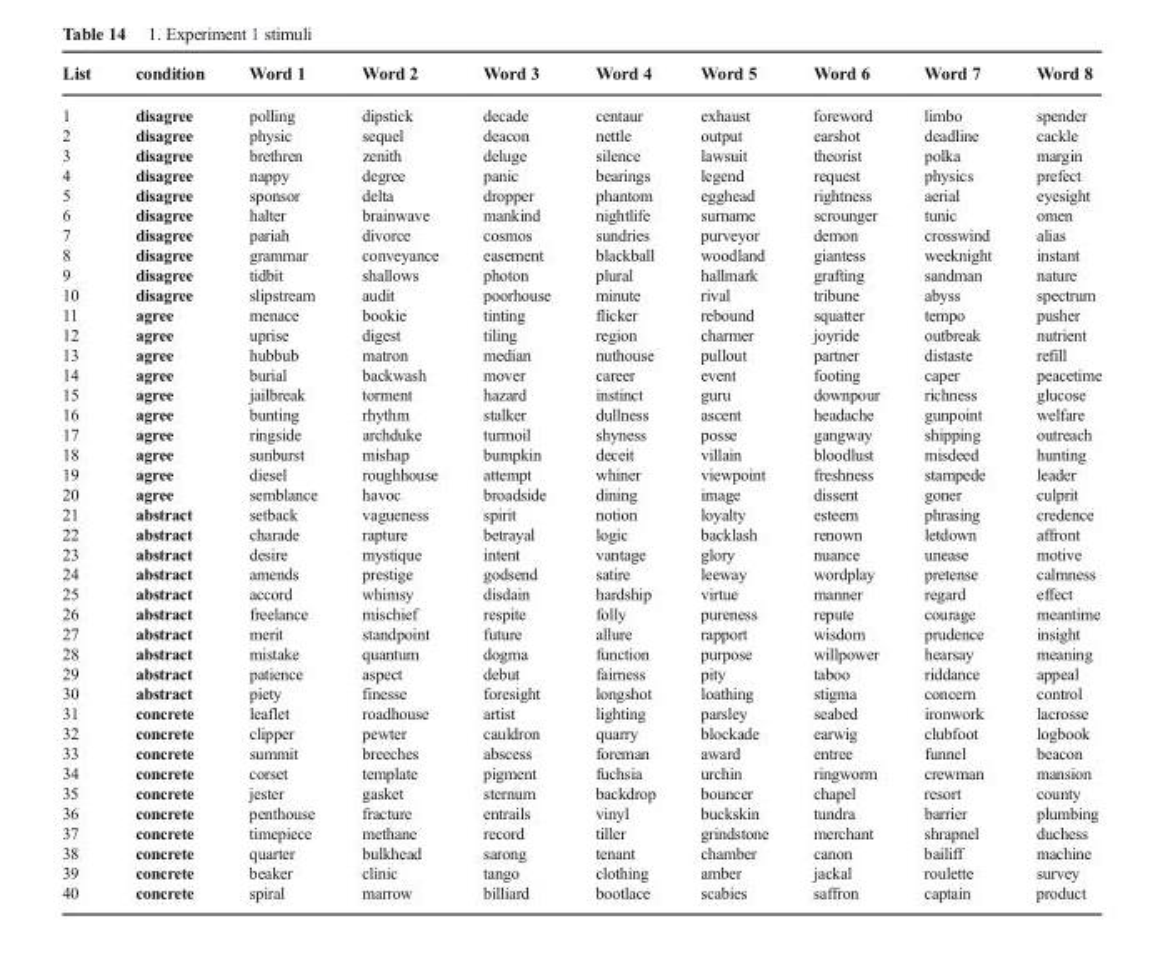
<table><thead><tr><td>List</td><td>condition</td><td>Word 1</td><td>Word 2</td><td>Word 3</td><td>Word 4</td><td>Word 5</td><td>Word 6</td><td>Word 7</td><td>Word 8</td></tr></thead><tbody><tr><td>1</td><td>disagree</td><td>polling</td><td>dipstick</td><td>decade</td><td>centaur</td><td>exhaust</td><td>foreword</td><td>limbo</td><td>spender</td></tr><tr><td>2</td><td>disagree</td><td>physic</td><td>sequel</td><td>deacon</td><td>nettle</td><td>output</td><td>earshot</td><td>deadline</td><td>cackle</td></tr><tr><td>3</td><td>disagree</td><td>brethren</td><td>zenith</td><td>deluge</td><td>silence</td><td>lawsuit</td><td>theorist</td><td>polka</td><td>margin</td></tr><tr><td>4</td><td>disagree</td><td>nappy</td><td>degree</td><td>panic</td><td>bearings</td><td>legend</td><td>request</td><td>physics</td><td>prefect</td></tr><tr><td>5</td><td>disagree</td><td>sponsor</td><td>delta</td><td>dropper</td><td>phantom</td><td>egghead</td><td>rightness</td><td>aerial</td><td>eyesight</td></tr><tr><td>6</td><td>disagree</td><td>halter</td><td>brainwave</td><td>mankind</td><td>nightlife</td><td>surname</td><td>scrounger</td><td>tunic</td><td>omen</td></tr><tr><td>7</td><td>disagree</td><td>pariah</td><td>divorce</td><td>cosmos</td><td>sundries</td><td>purveyor</td><td>demon</td><td>crosswind</td><td>alias</td></tr><tr><td>8</td><td>disagree</td><td>grammar</td><td>conveyance</td><td>easement</td><td>blackball</td><td>woodland</td><td>giantess</td><td>weeknight</td><td>instant</td></tr><tr><td>9</td><td>disagree</td><td>tidbit</td><td>shallows</td><td>photon</td><td>plural</td><td>hallmark</td><td>grafting</td><td>sandman</td><td>nature</td></tr><tr><td>10</td><td>disagree</td><td>slipstream</td><td>audit</td><td>poorhouse</td><td>minute</td><td>rival</td><td>tribune</td><td>abyss</td><td>spectrum</td></tr><tr><td>11</td><td>agree</td><td>menace</td><td>bookie</td><td>tinting</td><td>flicker</td><td>rebound</td><td>squatter</td><td>tempo</td><td>pusher</td></tr><tr><td>12</td><td>agree</td><td>uprise</td><td>digest</td><td>tiling</td><td>region</td><td>charmer</td><td>joyride</td><td>outbreak</td><td>nutrient</td></tr><tr><td>13</td><td>agree</td><td>hubbub</td><td>matron</td><td>median</td><td>nuthouse</td><td>pullout</td><td>partner</td><td>distaste</td><td>refill</td></tr><tr><td>14</td><td>agree</td><td>burial</td><td>backwash</td><td>mover</td><td>career</td><td>event</td><td>footing</td><td>caper</td><td>peacetime</td></tr><tr><td>15</td><td>agree</td><td>jailbreak</td><td>torment</td><td>hazard</td><td>instinct</td><td>guru</td><td>downpour</td><td>richness</td><td>glucose</td></tr><tr><td>16</td><td>agree</td><td>bunting</td><td>rhythm</td><td>stalker</td><td>dullness</td><td>ascent</td><td>headache</td><td>gunpoint</td><td>welfare</td></tr><tr><td>17</td><td>agree</td><td>ringside</td><td>archduke</td><td>turmoil</td><td>shyness</td><td>posse</td><td>gangway</td><td>shipping</td><td>outreach</td></tr><tr><td>18</td><td>agree</td><td>sunburst</td><td>mishap</td><td>bumpkin</td><td>deceit</td><td>villain</td><td>bloodlust</td><td>misdeed</td><td>hunting</td></tr><tr><td>19</td><td>agree</td><td>diesel</td><td>roughhouse</td><td>attempt</td><td>whiner</td><td>viewpoint</td><td>freshness</td><td>stampede</td><td>leader</td></tr><tr><td>20</td><td>agree</td><td>semblance</td><td>havoc</td><td>broadside</td><td>dining</td><td>image</td><td>dissent</td><td>goner</td><td>culprit</td></tr><tr><td>21</td><td>abstract</td><td>setback</td><td>vagueness</td><td>spirit</td><td>notion</td><td>loyalty</td><td>esteem</td><td>phrasing</td><td>credence</td></tr><tr><td>22</td><td>abstract</td><td>charade</td><td>rapture</td><td>betrayal</td><td>logic</td><td>backlash</td><td>renown</td><td>letdown</td><td>affront</td></tr><tr><td>23</td><td>abstract</td><td>desire</td><td>mystique</td><td>intent</td><td>vantage</td><td>glory</td><td>nuance</td><td>unease</td><td>motive</td></tr><tr><td>24</td><td>abstract</td><td>amends</td><td>prestige</td><td>godsend</td><td>satire</td><td>leeway</td><td>wordplay</td><td>pretense</td><td>calmness</td></tr><tr><td>25</td><td>abstract</td><td>accord</td><td>whimsy</td><td>disdain</td><td>hardship</td><td>virtue</td><td>manner</td><td>regard</td><td>effect</td></tr><tr><td>26</td><td>abstract</td><td>freelance</td><td>mischief</td><td>respite</td><td>folly</td><td>pureness</td><td>repute</td><td>courage</td><td>meantime</td></tr><tr><td>27</td><td>abstract</td><td>merit</td><td>standpoint</td><td>future</td><td>allure</td><td>rapport</td><td>wisdom</td><td>prudence</td><td>insight</td></tr><tr><td>28</td><td>abstract</td><td>mistake</td><td>quantum</td><td>dogma</td><td>function</td><td>purpose</td><td>willpower</td><td>hearsay</td><td>meaning</td></tr><tr><td>29</td><td>abstract</td><td>patience</td><td>aspect</td><td>debut</td><td>fairness</td><td>pity</td><td>taboo</td><td>riddance</td><td>appeal</td></tr><tr><td>30</td><td>abstract</td><td>piety</td><td>finesse</td><td>foresight</td><td>longshot</td><td>loathing</td><td>stigma</td><td>concern</td><td>control</td></tr><tr><td>31</td><td>concrete</td><td>leaflet</td><td>roadhouse</td><td>artist</td><td>lighting</td><td>parsley</td><td>seabed</td><td>ironwork</td><td>lacrosse</td></tr><tr><td>32</td><td>concrete</td><td>clipper</td><td>pewter</td><td>cauldron</td><td>quarry</td><td>blockade</td><td>earwig</td><td>clubfoot</td><td>logbook</td></tr><tr><td>33</td><td>concrete</td><td>summit</td><td>breeches</td><td>abscess</td><td>foreman</td><td>award</td><td>entree</td><td>funnel</td><td>beacon</td></tr><tr><td>34</td><td>concrete</td><td>corset</td><td>template</td><td>pigment</td><td>fuchsia</td><td>urchin</td><td>ringworm</td><td>crewman</td><td>mansion</td></tr><tr><td>35</td><td>concrete</td><td>jester</td><td>gasket</td><td>sternum</td><td>backdrop</td><td>bouncer</td><td>chapel</td><td>resort</td><td>county</td></tr><tr><td>36</td><td>concrete</td><td>penthouse</td><td>fracture</td><td>entrails</td><td>vinyl</td><td>buckskin</td><td>tundra</td><td>barrier</td><td>plumbing</td></tr><tr><td>37</td><td>concrete</td><td>timepiece</td><td>methane</td><td>record</td><td>tiller</td><td>grindstone</td><td>merchant</td><td>shrapnel</td><td>duchess</td></tr><tr><td>38</td><td>concrete</td><td>quarter</td><td>bulkhead</td><td>sarong</td><td>tenant</td><td>chamber</td><td>canon</td><td>bailiff</td><td>machine</td></tr><tr><td>39</td><td>concrete</td><td>beaker</td><td>clinic</td><td>tango</td><td>clothing</td><td>amber</td><td>jackal</td><td>roulette</td><td>survey</td></tr><tr><td>40</td><td>concrete</td><td>spiral</td><td>marrow</td><td>billiard</td><td>bootlace</td><td>scabies</td><td>saffron</td><td>captain</td><td>product</td></tr></tbody></table>